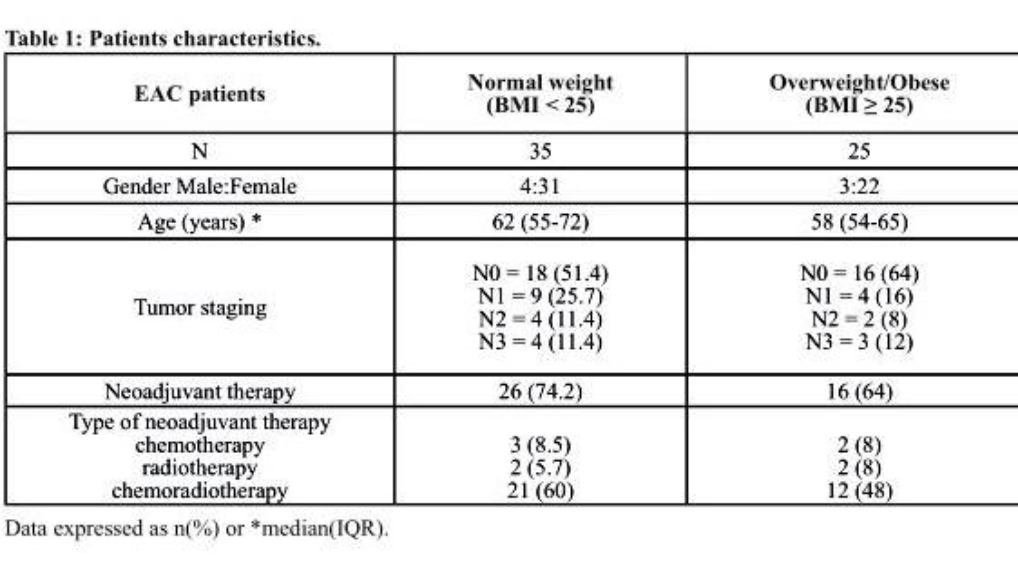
<table><thead><tr><td>eAc patients</td><td>normal weight (bMI &lt; 25)</td><td>overweight/obese (BMI ≥ 25)</td></tr></thead><tbody><tr><td>N</td><td>35</td><td>25</td></tr><tr><td>Gender Male:Female</td><td>4:31</td><td>3:22</td></tr><tr><td>Age (years) *</td><td>62 (55-72)</td><td>58 (54-65)</td></tr><tr><td>Tumor staging</td><td>N0 = 18 (51.4) N1 = 9 (25.7) N2 = 4 (11.4) N3 = 4 (11.4)</td><td>N0 = 16 (64) N1 = 4 (16) N2 = 2 (8) N3 = 3 (12)</td></tr><tr><td>Neoadjuvant therapy</td><td>26 (74.2)</td><td>16 (64)</td></tr><tr><td>Type of neoadjuvant therapy chemotherapy radiotherapy chemoradiotherapy</td><td>3 (8.5) 2 (5.7) 21 (60)</td><td>2 (8) 2 (8) 12 (48)</td></tr></tbody></table>